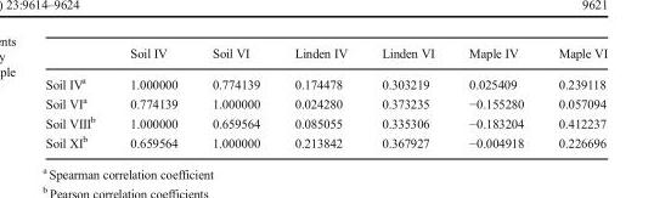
<table><thead><tr><td></td><td>Soil IV</td><td>Soil VI</td><td>Linden IV</td><td>Linden VI</td><td>Maple IV</td><td>Maple VI</td></tr></thead><tbody><tr><td>Soil IV<sup>a</sup></td><td>1.000000</td><td>0.774139</td><td>0.174478</td><td>0.303219</td><td>0.025409</td><td>0.239118</td></tr><tr><td>Soil VI<sup>a</sup></td><td>0.774139</td><td>1.000000</td><td>0.024280</td><td>0.373235</td><td>−0.155280</td><td>0.057094</td></tr><tr><td>Soil VIII<sup>b</sup></td><td>1.000000</td><td>0.659564</td><td>0.085055</td><td>0.335306</td><td>−0.183204</td><td>0.412237</td></tr><tr><td>Soil XI<sup>b</sup></td><td>0.659564</td><td>1.000000</td><td>0.213842</td><td>0.367927</td><td>−0.004918</td><td>0.226696</td></tr></tbody></table>